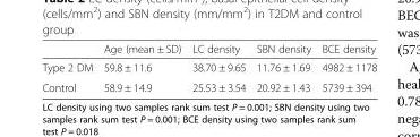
<table><thead><tr><td></td><td>Age (mean ± SD)</td><td>LC density</td><td>SBN density</td><td>BCE density</td></tr></thead><tbody><tr><td>Type 2 DM</td><td>59.8 ± 11.6</td><td>38.70 ± 9.65</td><td>11.76 ± 1.69</td><td>4982 ± 1178</td></tr><tr><td>Control</td><td>58.9 ± 14.9</td><td>25.53 ± 3.54</td><td>20.92 ± 1.43</td><td>5739 ± 394</td></tr></tbody></table>